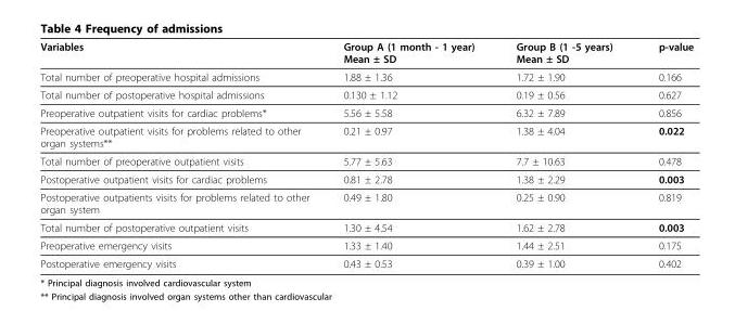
<table><thead><tr><td>Variables</td><td>Group A (1 month - 1 year) Mean ± SD</td><td>Group B (1 -5 years) Mean ± SD</td><td>p-value</td></tr></thead><tbody><tr><td>Total number of preoperative hospital admissions</td><td>1.88 ± 1.36</td><td>1.72 ± 1.90</td><td>0.166</td></tr><tr><td>Total number of postoperative hospital admissions</td><td>0.130 ± 1.12</td><td>0.19 ± 0.56</td><td>0.627</td></tr><tr><td>Preoperative outpatient visits for cardiac problems*</td><td>5.56 ± 5.58</td><td>6.32 ± 7.89</td><td>0.856</td></tr><tr><td>Preoperative outpatient visits for problems related to other organ systems**</td><td>0.21 ± 0.97</td><td>1.38 ± 4.04</td><td>0.022</td></tr><tr><td>Total number of preoperative outpatient visits</td><td>5.77 ± 5.63</td><td>7.7 ± 10.63</td><td>0.478</td></tr><tr><td>Postoperative outpatient visits for cardiac problems</td><td>0.81 ± 2.78</td><td>1.38 ± 2.29</td><td>0.003</td></tr><tr><td>Postoperative outpatients visits for problems related to other organ system</td><td>0.49 ± 1.80</td><td>0.25 ± 0.90</td><td>0.819</td></tr><tr><td>Total number of postoperative outpatient visits</td><td>1.30 ± 4.54</td><td>1.62 ± 2.78</td><td>0.003</td></tr><tr><td>Preoperative emergency visits</td><td>1.33 ± 1.40</td><td>1.44 ± 2.51</td><td>0.175</td></tr><tr><td>Postoperative emergency visits</td><td>0.43 ± 0.53</td><td>0.39 ± 1.00</td><td>0.402</td></tr></tbody></table>